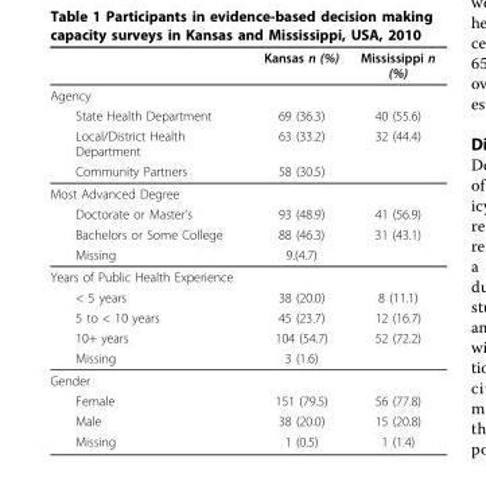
<table><thead><tr><td></td><td>Kansas n (%)</td><td>Mississippi n (%)</td></tr></thead><tbody><tr><td colspan="3">Agency</td></tr><tr><td>State Health Department</td><td>69 (36.3)</td><td>40 (55.6)</td></tr><tr><td>Local/District Health Department</td><td>63 (33.2)</td><td>32 (44.4)</td></tr><tr><td>Community Partners</td><td>58 (30.5)</td><td></td></tr><tr><td colspan="3">Most Advanced Degree</td></tr><tr><td>Doctorate or Master’s</td><td>93 (48.9)</td><td>41 (56.9)</td></tr><tr><td>Bachelors or Some College</td><td>88 (46.3)</td><td>31 (43.1)</td></tr><tr><td>Missing</td><td>9.(4.7)</td><td></td></tr><tr><td colspan="3">Years of Public Health Experience</td></tr><tr><td>&lt; 5 years</td><td>38 (20.0)</td><td>8 (11.1)</td></tr><tr><td>5 to &lt; 10 years</td><td>45 (23.7)</td><td>12 (16.7)</td></tr><tr><td>10+ years</td><td>104 (54.7)</td><td>52 (72.2)</td></tr><tr><td>Missing</td><td>3 (1.6)</td><td></td></tr><tr><td colspan="3">Gender</td></tr><tr><td>Female</td><td>151 (79.5)</td><td>56 (77.8)</td></tr><tr><td>Male</td><td>38 (20.0)</td><td>15 (20.8)</td></tr><tr><td>Missing</td><td>1 (0.5)</td><td>1 (1.4)</td></tr></tbody></table>